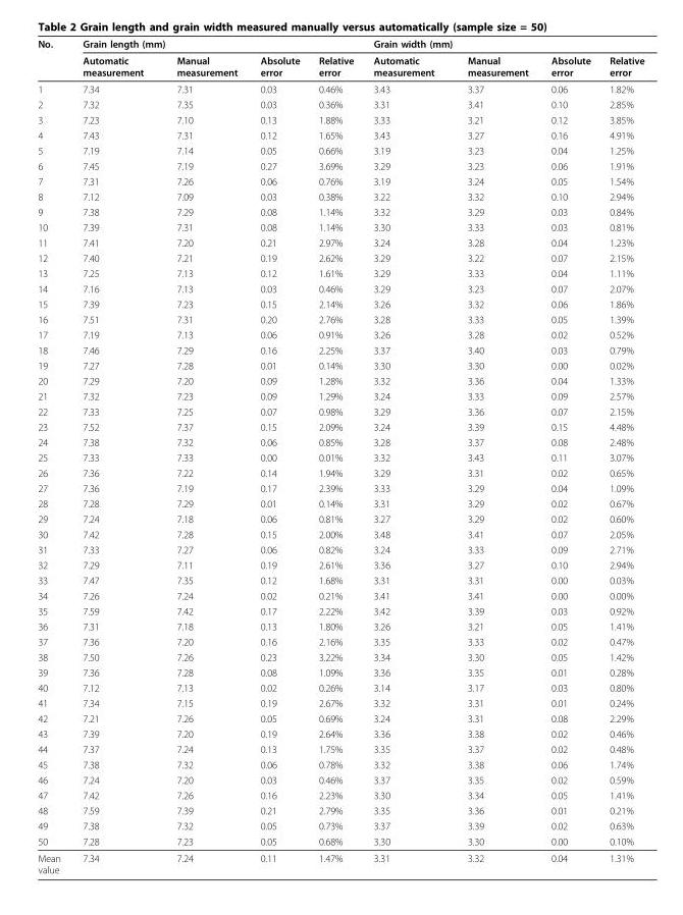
<table><thead><tr><td rowspan="2">No.</td><td colspan="4">Grain length (mm)</td><td colspan="4">Grain width (mm)</td></tr><tr><td>Automatic measurement</td><td>Manual measurement</td><td>Absolute error</td><td>Relative error</td><td>Automatic measurement</td><td>Manual measurement</td><td>Absolute error</td><td>Relative error</td></tr></thead><tbody><tr><td>1</td><td>7.34</td><td>7.31</td><td>0.03</td><td>0.46%</td><td>3.43</td><td>3.37</td><td>0.06</td><td>1.82%</td></tr><tr><td>2</td><td>7.32</td><td>7.35</td><td>0.03</td><td>0.36%</td><td>3.31</td><td>3.41</td><td>0.10</td><td>2.85%</td></tr><tr><td>3</td><td>7.23</td><td>7.10</td><td>0.13</td><td>1.88%</td><td>3.33</td><td>3.21</td><td>0.12</td><td>3.85%</td></tr><tr><td>4</td><td>7.43</td><td>7.31</td><td>0.12</td><td>1.65%</td><td>3.43</td><td>3.27</td><td>0.16</td><td>4.91%</td></tr><tr><td>5</td><td>7.19</td><td>7.14</td><td>0.05</td><td>0.66%</td><td>3.19</td><td>3.23</td><td>0.04</td><td>1.25%</td></tr><tr><td>6</td><td>7.45</td><td>7.19</td><td>0.27</td><td>3.69%</td><td>3.29</td><td>3.23</td><td>0.06</td><td>1.91%</td></tr><tr><td>7</td><td>7.31</td><td>7.26</td><td>0.06</td><td>0.76%</td><td>3.19</td><td>3.24</td><td>0.05</td><td>1.54%</td></tr><tr><td>8</td><td>7.12</td><td>7.09</td><td>0.03</td><td>0.38%</td><td>3.22</td><td>3.32</td><td>0.10</td><td>2.94%</td></tr><tr><td>9</td><td>7.38</td><td>7.29</td><td>0.08</td><td>1.14%</td><td>3.32</td><td>3.29</td><td>0.03</td><td>0.84%</td></tr><tr><td>10</td><td>7.39</td><td>7.31</td><td>0.08</td><td>1.14%</td><td>3.30</td><td>3.33</td><td>0.03</td><td>0.81%</td></tr><tr><td>11</td><td>7.41</td><td>7.20</td><td>0.21</td><td>2.97%</td><td>3.24</td><td>3.28</td><td>0.04</td><td>1.23%</td></tr><tr><td>12</td><td>7.40</td><td>7.21</td><td>0.19</td><td>2.62%</td><td>3.29</td><td>3.22</td><td>0.07</td><td>2.15%</td></tr><tr><td>13</td><td>7.25</td><td>7.13</td><td>0.12</td><td>1.61%</td><td>3.29</td><td>3.33</td><td>0.04</td><td>1.11%</td></tr><tr><td>14</td><td>7.16</td><td>7.13</td><td>0.03</td><td>0.46%</td><td>3.29</td><td>3.23</td><td>0.07</td><td>2.07%</td></tr><tr><td>15</td><td>7.39</td><td>7.23</td><td>0.15</td><td>2.14%</td><td>3.26</td><td>3.32</td><td>0.06</td><td>1.86%</td></tr><tr><td>16</td><td>7.51</td><td>7.31</td><td>0.20</td><td>2.76%</td><td>3.28</td><td>3.33</td><td>0.05</td><td>1.39%</td></tr><tr><td>17</td><td>7.19</td><td>7.13</td><td>0.06</td><td>0.91%</td><td>3.26</td><td>3.28</td><td>0.02</td><td>0.52%</td></tr><tr><td>18</td><td>7.46</td><td>7.29</td><td>0.16</td><td>2.25%</td><td>3.37</td><td>3.40</td><td>0.03</td><td>0.79%</td></tr><tr><td>19</td><td>7.27</td><td>7.28</td><td>0.01</td><td>0.14%</td><td>3.30</td><td>3.30</td><td>0.00</td><td>0.02%</td></tr><tr><td>20</td><td>7.29</td><td>7.20</td><td>0.09</td><td>1.28%</td><td>3.32</td><td>3.36</td><td>0.04</td><td>1.33%</td></tr><tr><td>21</td><td>7.32</td><td>7.23</td><td>0.09</td><td>1.29%</td><td>3.24</td><td>3.33</td><td>0.09</td><td>2.57%</td></tr><tr><td>22</td><td>7.33</td><td>7.25</td><td>0.07</td><td>0.98%</td><td>3.29</td><td>3.36</td><td>0.07</td><td>2.15%</td></tr><tr><td>23</td><td>7.52</td><td>7.37</td><td>0.15</td><td>2.09%</td><td>3.24</td><td>3.39</td><td>0.15</td><td>4.48%</td></tr><tr><td>24</td><td>7.38</td><td>7.32</td><td>0.06</td><td>0.85%</td><td>3.28</td><td>3.37</td><td>0.08</td><td>2.48%</td></tr><tr><td>25</td><td>7.33</td><td>7.33</td><td>0.00</td><td>0.01%</td><td>3.32</td><td>3.43</td><td>0.11</td><td>3.07%</td></tr><tr><td>26</td><td>7.36</td><td>7.22</td><td>0.14</td><td>1.94%</td><td>3.29</td><td>3.31</td><td>0.02</td><td>0.65%</td></tr><tr><td>27</td><td>7.36</td><td>7.19</td><td>0.17</td><td>2.39%</td><td>3.33</td><td>3.29</td><td>0.04</td><td>1.09%</td></tr><tr><td>28</td><td>7.28</td><td>7.29</td><td>0.01</td><td>0.14%</td><td>3.31</td><td>3.29</td><td>0.02</td><td>0.67%</td></tr><tr><td>29</td><td>7.24</td><td>7.18</td><td>0.06</td><td>0.81%</td><td>3.27</td><td>3.29</td><td>0.02</td><td>0.60%</td></tr><tr><td>30</td><td>7.42</td><td>7.28</td><td>0.15</td><td>2.00%</td><td>3.48</td><td>3.41</td><td>0.07</td><td>2.05%</td></tr><tr><td>31</td><td>7.33</td><td>7.27</td><td>0.06</td><td>0.82%</td><td>3.24</td><td>3.33</td><td>0.09</td><td>2.71%</td></tr><tr><td>32</td><td>7.29</td><td>7.11</td><td>0.19</td><td>2.61%</td><td>3.36</td><td>3.27</td><td>0.10</td><td>2.94%</td></tr><tr><td>33</td><td>7.47</td><td>7.35</td><td>0.12</td><td>1.68%</td><td>3.31</td><td>3.31</td><td>0.00</td><td>0.03%</td></tr><tr><td>34</td><td>7.26</td><td>7.24</td><td>0.02</td><td>0.21%</td><td>3.41</td><td>3.41</td><td>0.00</td><td>0.00%</td></tr><tr><td>35</td><td>7.59</td><td>7.42</td><td>0.17</td><td>2.22%</td><td>3.42</td><td>3.39</td><td>0.03</td><td>0.92%</td></tr><tr><td>36</td><td>7.31</td><td>7.18</td><td>0.13</td><td>1.80%</td><td>3.26</td><td>3.21</td><td>0.05</td><td>1.41%</td></tr><tr><td>37</td><td>7.36</td><td>7.20</td><td>0.16</td><td>2.16%</td><td>3.35</td><td>3.33</td><td>0.02</td><td>0.47%</td></tr><tr><td>38</td><td>7.50</td><td>7.26</td><td>0.23</td><td>3.22%</td><td>3.34</td><td>3.30</td><td>0.05</td><td>1.42%</td></tr><tr><td>39</td><td>7.36</td><td>7.28</td><td>0.08</td><td>1.09%</td><td>3.36</td><td>3.35</td><td>0.01</td><td>0.28%</td></tr><tr><td>40</td><td>7.12</td><td>7.13</td><td>0.02</td><td>0.26%</td><td>3.14</td><td>3.17</td><td>0.03</td><td>0.80%</td></tr><tr><td>41</td><td>7.34</td><td>7.15</td><td>0.19</td><td>2.67%</td><td>3.32</td><td>3.31</td><td>0.01</td><td>0.24%</td></tr><tr><td>42</td><td>7.21</td><td>7.26</td><td>0.05</td><td>0.69%</td><td>3.24</td><td>3.31</td><td>0.08</td><td>2.29%</td></tr><tr><td>43</td><td>7.39</td><td>7.20</td><td>0.19</td><td>2.64%</td><td>3.36</td><td>3.38</td><td>0.02</td><td>0.46%</td></tr><tr><td>44</td><td>7.37</td><td>7.24</td><td>0.13</td><td>1.75%</td><td>3.35</td><td>3.37</td><td>0.02</td><td>0.48%</td></tr><tr><td>45</td><td>7.38</td><td>7.32</td><td>0.06</td><td>0.78%</td><td>3.32</td><td>3.38</td><td>0.06</td><td>1.74%</td></tr><tr><td>46</td><td>7.24</td><td>7.20</td><td>0.03</td><td>0.46%</td><td>3.37</td><td>3.35</td><td>0.02</td><td>0.59%</td></tr><tr><td>47</td><td>7.42</td><td>7.26</td><td>0.16</td><td>2.23%</td><td>3.30</td><td>3.34</td><td>0.05</td><td>1.41%</td></tr><tr><td>48</td><td>7.59</td><td>7.39</td><td>0.21</td><td>2.79%</td><td>3.35</td><td>3.36</td><td>0.01</td><td>0.21%</td></tr><tr><td>49</td><td>7.38</td><td>7.32</td><td>0.05</td><td>0.73%</td><td>3.37</td><td>3.39</td><td>0.02</td><td>0.63%</td></tr><tr><td>50</td><td>7.28</td><td>7.23</td><td>0.05</td><td>0.68%</td><td>3.30</td><td>3.30</td><td>0.00</td><td>0.10%</td></tr><tr><td>Mean value</td><td>7.34</td><td>7.24</td><td>0.11</td><td>1.47%</td><td>3.31</td><td>3.32</td><td>0.04</td><td>1.31%</td></tr></tbody></table>